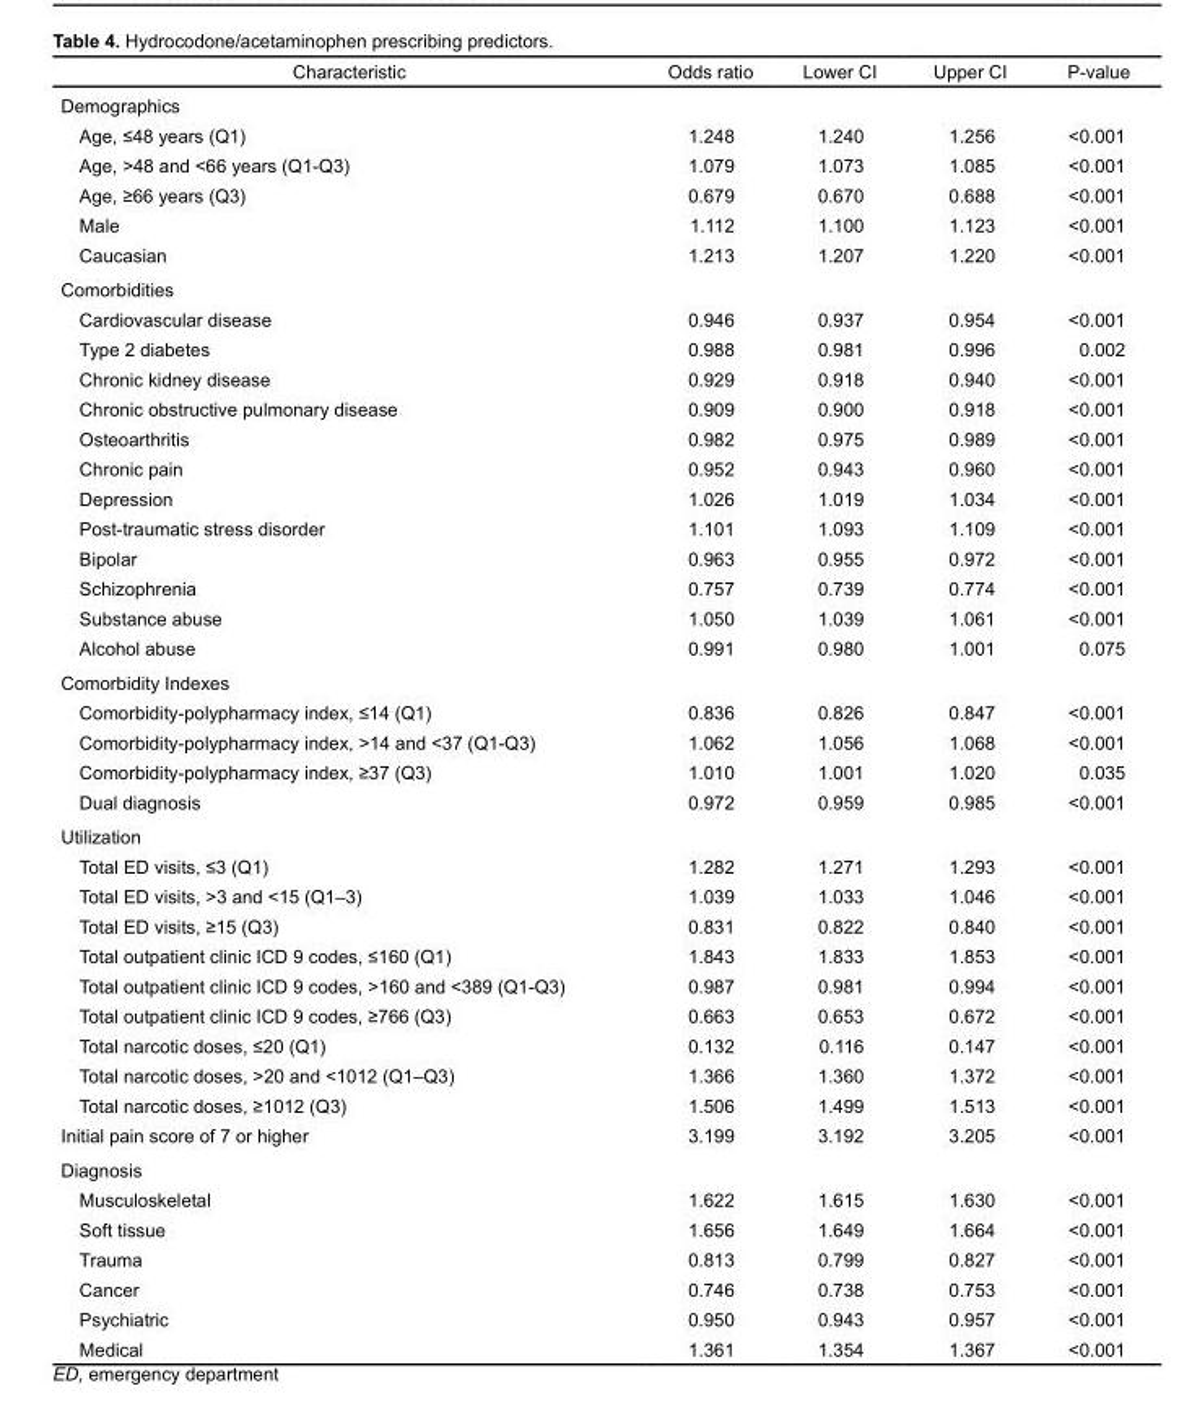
<table><thead><tr><td>Characteristic</td><td>Odds ratio</td><td>Lower CI</td><td>Upper CI</td><td>P-value</td></tr></thead><tbody><tr><td colspan="5">Demographics</td></tr><tr><td>Age, ≤48 years (Q1)</td><td>1.248</td><td>1.240</td><td>1.256</td><td>&lt;0.001</td></tr><tr><td>Age, &gt;48 and &lt;66 years (Q1-Q3)</td><td>1.079</td><td>1.073</td><td>1.085</td><td>&lt;0.001</td></tr><tr><td>Age, ≥66 years (Q3)</td><td>0.679</td><td>0.670</td><td>0.688</td><td>&lt;0.001</td></tr><tr><td>Male</td><td>1.112</td><td>1.100</td><td>1.123</td><td>&lt;0.001</td></tr><tr><td>Caucasian</td><td>1.213</td><td>1.207</td><td>1.220</td><td>&lt;0.001</td></tr><tr><td colspan="5">Comorbidities</td></tr><tr><td>Cardiovascular disease</td><td>0.946</td><td>0.937</td><td>0.954</td><td>&lt;0.001</td></tr><tr><td>Type 2 diabetes</td><td>0.988</td><td>0.981</td><td>0.996</td><td>0.002</td></tr><tr><td>Chronic kidney disease</td><td>0.929</td><td>0.918</td><td>0.940</td><td>&lt;0.001</td></tr><tr><td>Chronic obstructive pulmonary disease</td><td>0.909</td><td>0.900</td><td>0.918</td><td>&lt;0.001</td></tr><tr><td>Osteoarthritis</td><td>0.982</td><td>0.975</td><td>0.989</td><td>&lt;0.001</td></tr><tr><td>Chronic pain</td><td>0.952</td><td>0.943</td><td>0.960</td><td>&lt;0.001</td></tr><tr><td>Depression</td><td>1.026</td><td>1.019</td><td>1.034</td><td>&lt;0.001</td></tr><tr><td>Post-traumatic stress disorder</td><td>1.101</td><td>1.093</td><td>1.109</td><td>&lt;0.001</td></tr><tr><td>Bipolar</td><td>0.963</td><td>0.955</td><td>0.972</td><td>&lt;0.001</td></tr><tr><td>Schizophrenia</td><td>0.757</td><td>0.739</td><td>0.774</td><td>&lt;0.001</td></tr><tr><td>Substance abuse</td><td>1.050</td><td>1.039</td><td>1.061</td><td>&lt;0.001</td></tr><tr><td>Alcohol abuse</td><td>0.991</td><td>0.980</td><td>1.001</td><td>0.075</td></tr><tr><td colspan="5">Comorbidity Indexes</td></tr><tr><td>Comorbidity-polypharmacy index, ≤14 (Q1)</td><td>0.836</td><td>0.826</td><td>0.847</td><td>&lt;0.001</td></tr><tr><td>Comorbidity-polypharmacy index, &gt;14 and &lt;37 (Q1-Q3)</td><td>1.062</td><td>1.056</td><td>1.068</td><td>&lt;0.001</td></tr><tr><td>Comorbidity-polypharmacy index, ≥37 (Q3)</td><td>1.010</td><td>1.001</td><td>1.020</td><td>0.035</td></tr><tr><td>Dual diagnosis</td><td>0.972</td><td>0.959</td><td>0.985</td><td>&lt;0.001</td></tr><tr><td colspan="5">Utilization</td></tr><tr><td>Total ED visits, ≤3 (Q1)</td><td>1.282</td><td>1.271</td><td>1.293</td><td>&lt;0.001</td></tr><tr><td>Total ED visits, &gt;3 and &lt;15 (Q1‒3)</td><td>1.039</td><td>1.033</td><td>1.046</td><td>&lt;0.001</td></tr><tr><td>Total ED visits, ≥15 (Q3)</td><td>0.831</td><td>0.822</td><td>0.840</td><td>&lt;0.001</td></tr><tr><td>Total outpatient clinic ICD 9 codes, ≤160 (Q1)</td><td>1.843</td><td>1.833</td><td>1.853</td><td>&lt;0.001</td></tr><tr><td>Total outpatient clinic ICD 9 codes, &gt;160 and &lt;389 (Q1-Q3)</td><td>0.987</td><td>0.981</td><td>0.994</td><td>&lt;0.001</td></tr><tr><td>Total outpatient clinic ICD 9 codes, ≥766 (Q3)</td><td>0.663</td><td>0.653</td><td>0.672</td><td>&lt;0.001</td></tr><tr><td>Total narcotic doses, ≤20 (Q1)</td><td>0.132</td><td>0.116</td><td>0.147</td><td>&lt;0.001</td></tr><tr><td>Total narcotic doses, &gt;20 and &lt;1012 (Q1‒Q3)</td><td>1.366</td><td>1.360</td><td>1.372</td><td>&lt;0.001</td></tr><tr><td>Total narcotic doses, ≥1012 (Q3)</td><td>1.506</td><td>1.499</td><td>1.513</td><td>&lt;0.001</td></tr><tr><td>Initial pain score of 7 or higher</td><td>3.199</td><td>3.192</td><td>3.205</td><td>&lt;0.001</td></tr><tr><td colspan="5">Diagnosis</td></tr><tr><td>Musculoskeletal</td><td>1.622</td><td>1.615</td><td>1.630</td><td>&lt;0.001</td></tr><tr><td>Soft tissue</td><td>1.656</td><td>1.649</td><td>1.664</td><td>&lt;0.001</td></tr><tr><td>Trauma</td><td>0.813</td><td>0.799</td><td>0.827</td><td>&lt;0.001</td></tr><tr><td>Cancer</td><td>0.746</td><td>0.738</td><td>0.753</td><td>&lt;0.001</td></tr><tr><td>Psychiatric</td><td>0.950</td><td>0.943</td><td>0.957</td><td>&lt;0.001</td></tr><tr><td>Medical</td><td>1.361</td><td>1.354</td><td>1.367</td><td>&lt;0.001</td></tr></tbody></table>